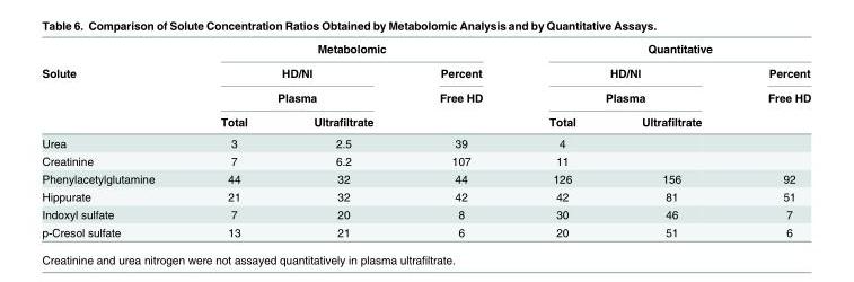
<table><thead><tr><td rowspan="4">Solute</td><td colspan="3">Metabolomic</td><td colspan="3">Quantitative</td></tr><tr><td rowspan="2" colspan="2">HD/Nl Plasma</td><td rowspan="3">Percent Free HD</td><td rowspan="2" colspan="2">HD/Nl Plasma</td><td rowspan="3">Percent Free HD</td></tr><tr></tr><tr><td>Total</td><td>Ultrafiltrate</td><td>Total</td><td>Ultrafiltrate</td></tr></thead><tbody><tr><td>Urea</td><td>3</td><td>2.5</td><td>39</td><td>4</td><td></td><td></td></tr><tr><td>Creatinine</td><td>7</td><td>6.2</td><td>107</td><td>11</td><td></td><td></td></tr><tr><td>Phenylacetylglutamine</td><td>44</td><td>32</td><td>44</td><td>126</td><td>156</td><td>92</td></tr><tr><td>Hippurate</td><td>21</td><td>32</td><td>42</td><td>42</td><td>81</td><td>51</td></tr><tr><td>Indoxyl sulfate</td><td>7</td><td>20</td><td>8</td><td>30</td><td>46</td><td>7</td></tr><tr><td>p-Cresol sulfate</td><td>13</td><td>21</td><td>6</td><td>20</td><td>51</td><td>6</td></tr></tbody></table>